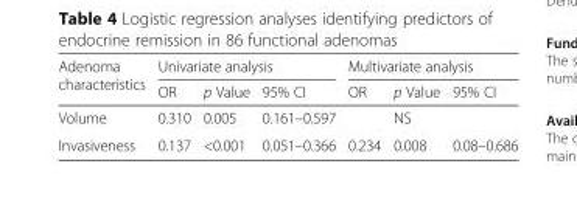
<table><thead><tr><td rowspan="2">Adenoma characteristics</td><td colspan="3">Univariate analysis</td><td colspan="3">Multivariate analysis</td></tr><tr><td>OR</td><td>p Value</td><td>95% CI</td><td>OR</td><td>p Value</td><td>95% CI</td></tr></thead><tbody><tr><td>Volume</td><td>0.310</td><td>0.005</td><td>0.161–0.597</td><td></td><td>NS</td><td></td></tr><tr><td>Invasiveness</td><td>0.137</td><td>&lt;0.001</td><td>0.051–0.366</td><td>0.234</td><td>0.008</td><td>0.08–0.686</td></tr></tbody></table>